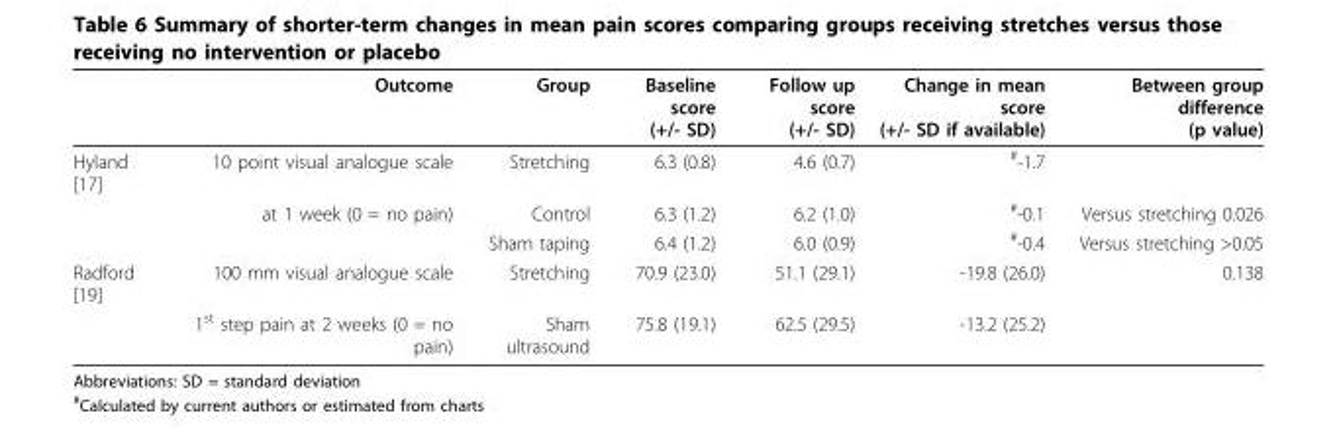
<table><thead><tr><td></td><td>Outcome</td><td>Group</td><td>Baseline score (+/- SD)</td><td>Follow up score (+/- SD)</td><td>Change in mean score (+/- SD if available)</td><td>Between group difference (p value)</td></tr></thead><tbody><tr><td rowspan="3">Hyland [17]</td><td>10 point visual analogue scale</td><td>Stretching</td><td>6.3 (0.8)</td><td>4.6 (0.7)</td><td><sup>#</sup>-1.7</td><td></td></tr><tr><td>at 1 week (0 = no pain)</td><td>Control</td><td>6.3 (1.2)</td><td>6.2 (1.0)</td><td><sup>#</sup>-0.1</td><td>Versus stretching 0.026</td></tr><tr><td></td><td>Sham taping</td><td>6.4 (1.2)</td><td>6.0 (0.9)</td><td><sup>#</sup>-0.4</td><td>Versus stretching &gt;0.05</td></tr><tr><td rowspan="2">Radford [19]</td><td>100 mm visual analogue scale</td><td>Stretching</td><td>70.9 (23.0)</td><td>51.1 (29.1)</td><td>-19.8 (26.0)</td><td>0.138</td></tr><tr><td>1<sup>st</sup> step pain at 2 weeks (0 = no pain)</td><td>Sham ultrasound</td><td>75.8 (19.1)</td><td>62.5 (29.5)</td><td>-13.2 (25.2)</td><td></td></tr></tbody></table>